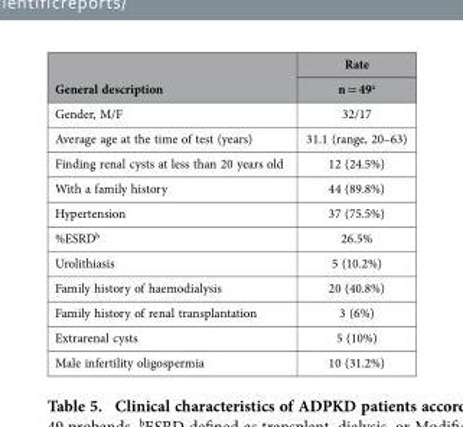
<table><thead><tr><td rowspan="2">General description</td><td rowspan="2">Rate n = 49a</td></tr><tr></tr></thead><tbody><tr><td>Gender, M/F</td><td>32/17</td></tr><tr><td>Average age at the time of test (years)</td><td>31.1 (range, 20–63)</td></tr><tr><td>Finding renal cysts at less than 20 years old</td><td>12 (24.5%)</td></tr><tr><td>With a family history</td><td>44 (89.8%)</td></tr><tr><td>Hypertension</td><td>37 (75.5%)</td></tr><tr><td>%ESRD<sup>b</sup></td><td>26.5%</td></tr><tr><td>Urolithiasis</td><td>5 (10.2%)</td></tr><tr><td>Family history of haemodialysis</td><td>20 (40.8%)</td></tr><tr><td>Family history of renal transplantation</td><td>3 (6%)</td></tr><tr><td>Extrarenal cysts</td><td>5 (10%)</td></tr><tr><td>Male infertility oligospermia</td><td>10 (31.2%)</td></tr></tbody></table>